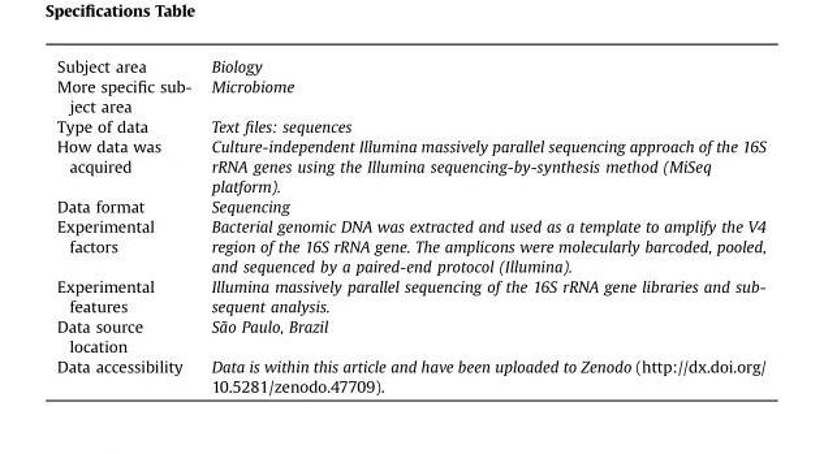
<table><tbody><tr><td>Subject area</td><td>Biology</td></tr><tr><td>More specific sub- ject area</td><td>Microbiome</td></tr><tr><td>Type of data</td><td>Text files: sequences</td></tr><tr><td>How data was acquired</td><td>Culture-independent Illumina massively parallel sequencing approach of the 16S rRNA genes using the Illumina sequencing-by-synthesis method (MiSeq platform).</td></tr><tr><td>Data format</td><td>Sequencing</td></tr><tr><td>Experimental factors</td><td>Bacterial genomic DNA was extracted and used as a template to amplify the V4 region of the 16S rRNA gene. The amplicons were molecularly barcoded, pooled, and sequenced by a paired-end protocol (Illumina).</td></tr><tr><td>Experimental features</td><td>Illumina massively parallel sequencing of the 16S rRNA gene libraries and sub- sequent analysis.</td></tr><tr><td>Data source location</td><td>São Paulo, Brazil</td></tr><tr><td>Data accessibility</td><td>Data is within this article and have been uploaded to Zenodo (http://dx.doi.org/ 10.5281/zenodo.47709).</td></tr></tbody></table>